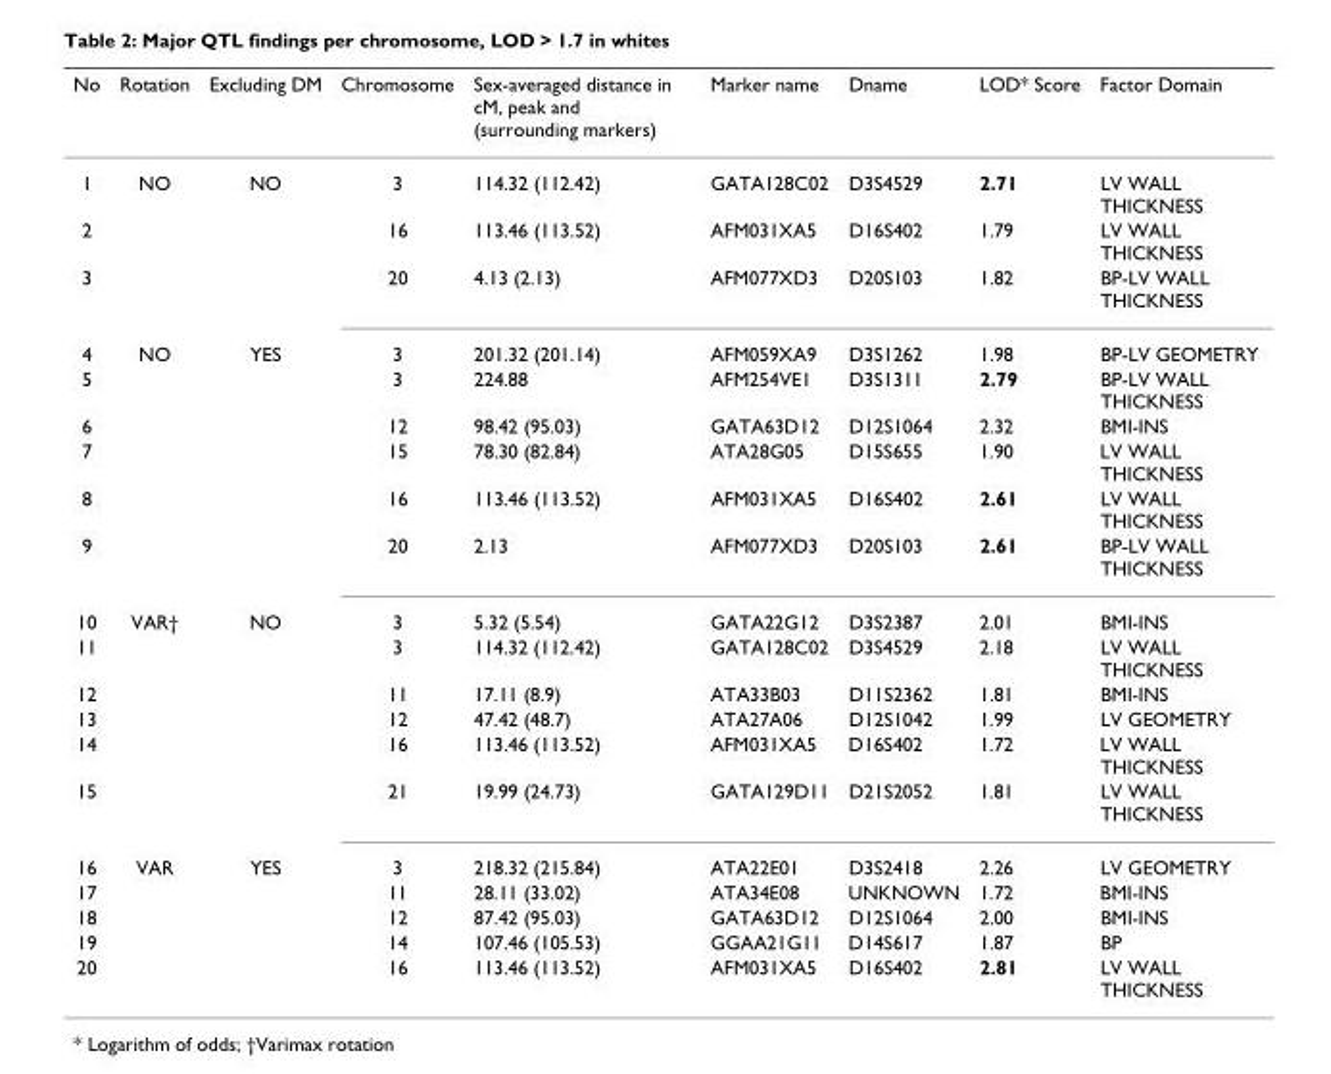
<table><thead><tr><td>No</td><td>Rotation</td><td>Excluding DM</td><td>Chromosome</td><td>Sex-averaged distance in cM, peak and (surrounding markers)</td><td>Marker name</td><td>Dname</td><td>LOD* Score</td><td>Factor Domain</td></tr></thead><tbody><tr><td>1</td><td>NO</td><td>NO</td><td>3</td><td>114.32 (112.42)</td><td>GATA128C02</td><td>D3S4529</td><td>2.71</td><td>LV WALL THICKNESS</td></tr><tr><td>2</td><td></td><td></td><td>16</td><td>113.46 (113.52)</td><td>AFM031XA5</td><td>D16S402</td><td>1.79</td><td>LV WALL THICKNESS</td></tr><tr><td>3</td><td></td><td></td><td>20</td><td>4.13 (2.13)</td><td>AFM077XD3</td><td>D20S103</td><td>1.82</td><td>BP-LV WALL THICKNESS</td></tr><tr><td>4</td><td>NO</td><td>YES</td><td>3</td><td>201.32 (201.14)</td><td>AFM059XA9</td><td>D3S1262</td><td>1.98</td><td>BP-LV GEOMETRY</td></tr><tr><td>5</td><td></td><td></td><td>3</td><td>224.88</td><td>AFM254VE1</td><td>D3S1311</td><td>2.79</td><td>BP-LV WALL THICKNESS</td></tr><tr><td>6</td><td></td><td></td><td>12</td><td>98.42 (95.03)</td><td>GATA63D12</td><td>D12S1064</td><td>2.32</td><td>BMI-INS</td></tr><tr><td>7</td><td></td><td></td><td>15</td><td>78.30 (82.84)</td><td>ATA28G05</td><td>D15S655</td><td>1.90</td><td>LV WALL THICKNESS</td></tr><tr><td>8</td><td></td><td></td><td>16</td><td>113.46 (113.52)</td><td>AFM031XA5</td><td>D16S402</td><td>2.61</td><td>LV WALL THICKNESS</td></tr><tr><td>9</td><td></td><td></td><td>20</td><td>2.13</td><td>AFM077XD3</td><td>D20S103</td><td>2.61</td><td>BP-LV WALL THICKNESS</td></tr><tr><td>10</td><td>VAR†</td><td>NO</td><td>3</td><td>5.32 (5.54)</td><td>GATA22G12</td><td>D3S2387</td><td>2.01</td><td>BMI-INS</td></tr><tr><td>11</td><td></td><td></td><td>3</td><td>114.32 (112.42)</td><td>GATA128C02</td><td>D3S4529</td><td>2.18</td><td>LV WALL THICKNESS</td></tr><tr><td>12</td><td></td><td></td><td>11</td><td>17.11 (8.9)</td><td>ATA33B03</td><td>D11S2362</td><td>1.81</td><td>BMI-INS</td></tr><tr><td>13</td><td></td><td></td><td>12</td><td>47.42 (48.7)</td><td>ATA27A06</td><td>D12S1042</td><td>1.99</td><td>LV GEOMETRY</td></tr><tr><td>14</td><td></td><td></td><td>16</td><td>113.46 (113.52)</td><td>AFM031XA5</td><td>D16S402</td><td>1.72</td><td>LV WALL THICKNESS</td></tr><tr><td>15</td><td></td><td></td><td>21</td><td>19.99 (24.73)</td><td>GATA129D11</td><td>D21S2052</td><td>1.81</td><td>LV WALL THICKNESS</td></tr><tr><td>16</td><td>VAR</td><td>YES</td><td>3</td><td>218.32 (215.84)</td><td>ATA22E01</td><td>D3S2418</td><td>2.26</td><td>LV GEOMETRY</td></tr><tr><td>17</td><td></td><td></td><td>11</td><td>28.11 (33.02)</td><td>ATA34E08</td><td>UNKNOWN</td><td>1.72</td><td>BMI-INS</td></tr><tr><td>18</td><td></td><td></td><td>12</td><td>87.42 (95.03)</td><td>GATA63D12</td><td>D12S1064</td><td>2.00</td><td>BMI-INS</td></tr><tr><td>19</td><td></td><td></td><td>14</td><td>107.46 (105.53)</td><td>GGAA21G11</td><td>D14S617</td><td>1.87</td><td>BP</td></tr><tr><td>20</td><td></td><td></td><td>16</td><td>113.46 (113.52)</td><td>AFM031XA5</td><td>D16S402</td><td>2.81</td><td>LV WALL THICKNESS</td></tr></tbody></table>